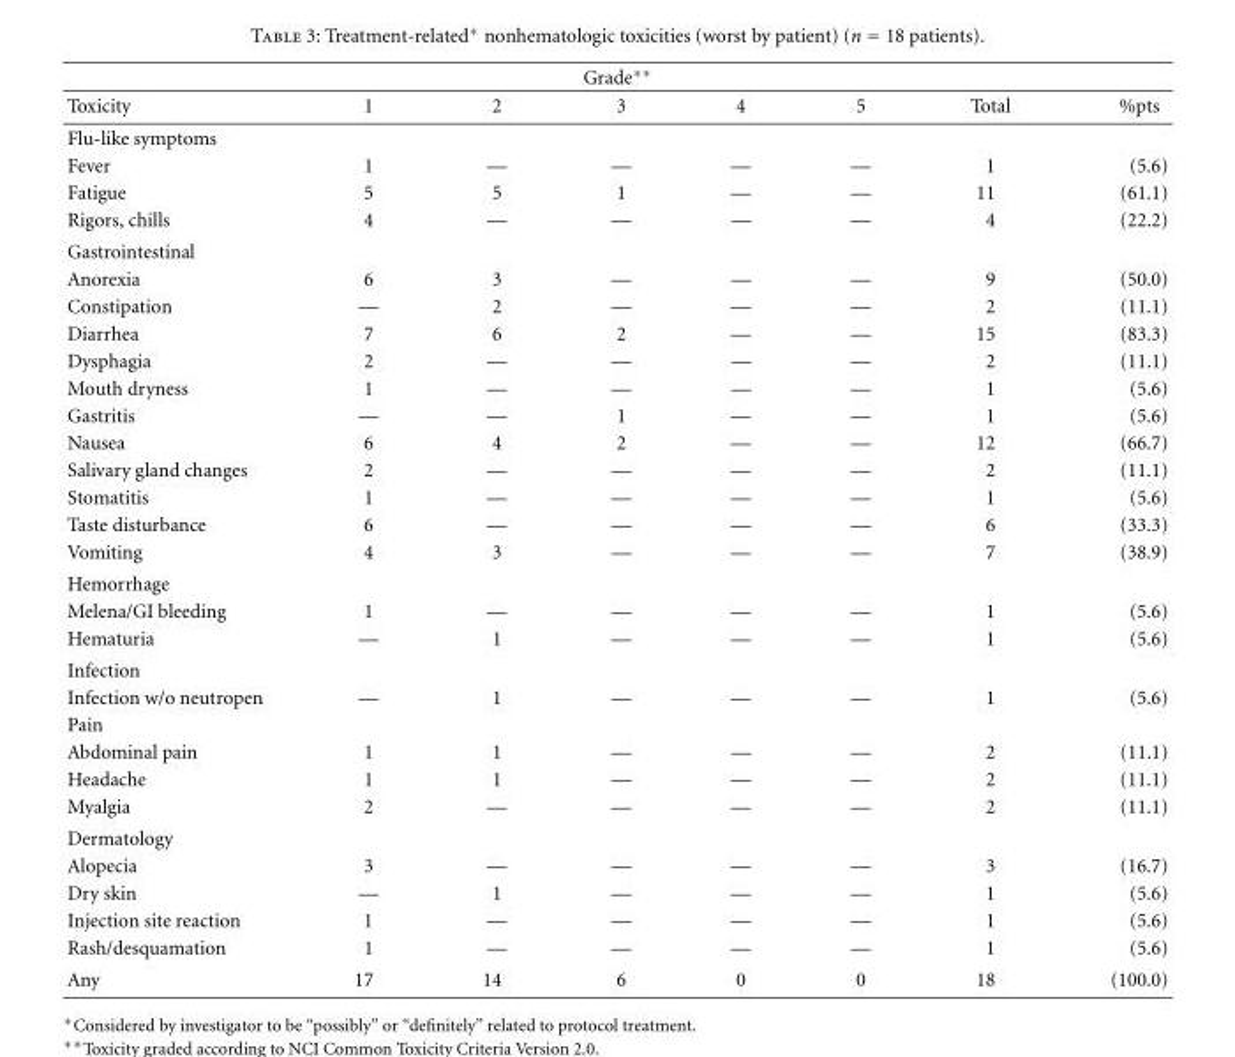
<table><tbody><tr><td colspan="8">Grade **</td></tr><tr><td>Toxicity</td><td>1</td><td>2</td><td>3</td><td>4</td><td>5</td><td>Total</td><td>%pts</td></tr><tr><td colspan="8">Flu-like symptoms</td></tr><tr><td>Fever</td><td>1</td><td>—</td><td>—</td><td>—</td><td>—</td><td>1</td><td>(5.6)</td></tr><tr><td>Fatigue</td><td>5</td><td>5</td><td>1</td><td>—</td><td>—</td><td>11</td><td>(61.1)</td></tr><tr><td>Rigors, chills</td><td>4</td><td>—</td><td>—</td><td>—</td><td>—</td><td>4</td><td>(22.2)</td></tr><tr><td colspan="8">Gastrointestinal</td></tr><tr><td>Anorexia</td><td>6</td><td>3</td><td>—</td><td>—</td><td>—</td><td>9</td><td>(50.0)</td></tr><tr><td>Constipation</td><td>—</td><td>2</td><td>—</td><td>—</td><td>—</td><td>2</td><td>(11.1)</td></tr><tr><td>Diarrhea</td><td>7</td><td>6</td><td>2</td><td>—</td><td>—</td><td>15</td><td>(83.3)</td></tr><tr><td>Dysphagia</td><td>2</td><td>—</td><td>—</td><td>—</td><td>—</td><td>2</td><td>(11.1)</td></tr><tr><td>Mouth dryness</td><td>1</td><td>—</td><td>—</td><td>—</td><td>—</td><td>1</td><td>(5.6)</td></tr><tr><td>Gastritis</td><td>—</td><td>—</td><td>1</td><td>—</td><td>—</td><td>1</td><td>(5.6)</td></tr><tr><td>Nausea</td><td>6</td><td>4</td><td>2</td><td>—</td><td>—</td><td>12</td><td>(66.7)</td></tr><tr><td>Salivary gland changes</td><td>2</td><td>—</td><td>—</td><td>—</td><td>—</td><td>2</td><td>(11.1)</td></tr><tr><td>Stomatitis</td><td>1</td><td>—</td><td>—</td><td>—</td><td>—</td><td>1</td><td>(5.6)</td></tr><tr><td>Taste disturbance</td><td>6</td><td>—</td><td>—</td><td>—</td><td>—</td><td>6</td><td>(33.3)</td></tr><tr><td>Vomiting</td><td>4</td><td>3</td><td>—</td><td>—</td><td>—</td><td>7</td><td>(38.9)</td></tr><tr><td colspan="8">Hemorrhage</td></tr><tr><td>Melena/GI bleeding</td><td>1</td><td>—</td><td>—</td><td>—</td><td>—</td><td>1</td><td>(5.6)</td></tr><tr><td>Hematuria</td><td>—</td><td>1</td><td>—</td><td>—</td><td>—</td><td>1</td><td>(5.6)</td></tr><tr><td colspan="8">Infection</td></tr><tr><td>Infection w/o neutropen</td><td>—</td><td>1</td><td>—</td><td>—</td><td>—</td><td>1</td><td>(5.6)</td></tr><tr><td colspan="8">Pain</td></tr><tr><td>Abdominal pain</td><td>1</td><td>1</td><td>—</td><td>—</td><td>—</td><td>2</td><td>(11.1)</td></tr><tr><td>Headache</td><td>1</td><td>1</td><td>—</td><td>—</td><td>—</td><td>2</td><td>(11.1)</td></tr><tr><td>Myalgia</td><td>2</td><td>—</td><td>—</td><td>—</td><td>—</td><td>2</td><td>(11.1)</td></tr><tr><td colspan="8">Dermatology</td></tr><tr><td>Alopecia</td><td>3</td><td>—</td><td>—</td><td>—</td><td>—</td><td>3</td><td>(16.7)</td></tr><tr><td>Dry skin</td><td>—</td><td>1</td><td>—</td><td>—</td><td>—</td><td>1</td><td>(5.6)</td></tr><tr><td>Injection site reaction</td><td>1</td><td>—</td><td>—</td><td>—</td><td>—</td><td>1</td><td>(5.6)</td></tr><tr><td>Rash/desquamation</td><td>1</td><td>—</td><td>—</td><td>—</td><td>—</td><td>1</td><td>(5.6)</td></tr><tr><td>Any</td><td>17</td><td>14</td><td>6</td><td>0</td><td>0</td><td>18</td><td>(100.0)</td></tr></tbody></table>